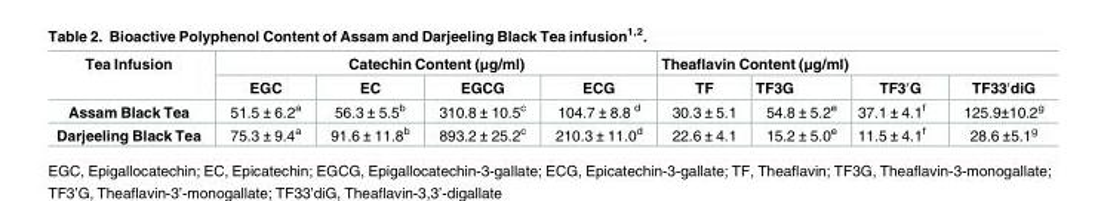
<table><thead><tr><td rowspan="2">Tea Infusion</td><td colspan="4">Catechin Content (μg/ml)</td><td colspan="4">Theaflavin Content (μg/ml)</td></tr><tr><td>EGC</td><td>EC</td><td>EGCG</td><td>ECG</td><td>TF</td><td>TF3G</td><td>TF3′G</td><td>TF33′diG</td></tr></thead><tbody><tr><td>Assam Black Tea</td><td>51.5 ± 6.2<sup>a</sup></td><td>56.3 ± 5.5<sup>b</sup></td><td>310.8 ± 10.5<sup>c</sup></td><td>104.7 ± 8.8 <sup>d</sup></td><td>30.3 ± 5.1</td><td>54.8 ± 5.2<sup>e</sup></td><td>37.1 ± 4.1<sup>f</sup></td><td>125.9±10.2<sup>g</sup></td></tr><tr><td>Darjeeling Black Tea</td><td>75.3 ± 9.4<sup>a</sup></td><td>91.6 ± 11.8<sup>b</sup></td><td>893.2 ± 25.2<sup>c</sup></td><td>210.3 ± 11.0<sup>d</sup></td><td>22.6 ± 4.1</td><td>15.2 ± 5.0<sup>e</sup></td><td>11.5 ± 4.1<sup>f</sup></td><td>28.6 ±5.1<sup>g</sup></td></tr></tbody></table>